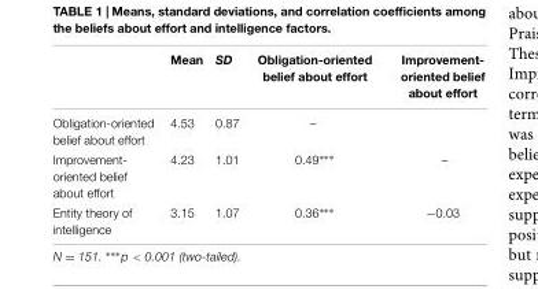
<table><thead><tr><td></td><td>Mean</td><td>SD</td><td>Obligation-oriented belief about effort</td><td>Improvement- oriented belief about effort</td></tr></thead><tbody><tr><td>Obligation-oriented belief about effort</td><td>4.53</td><td>0.87</td><td>–</td><td></td></tr><tr><td>Improvement- oriented belief about effort</td><td>4.23</td><td>1.01</td><td>0.49∗∗∗</td><td>–</td></tr><tr><td>Entity theory of intelligence</td><td>3.15</td><td>1.07</td><td>0.36∗∗∗</td><td>−0.03</td></tr></tbody></table>